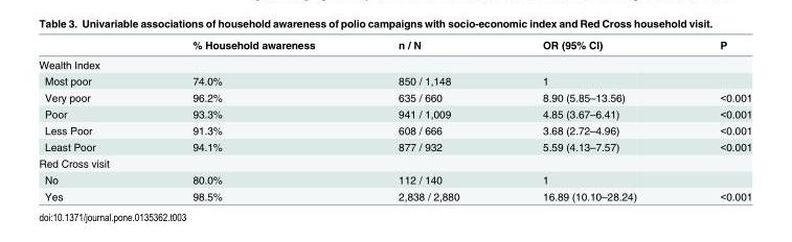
<table><thead><tr><td></td><td>% Household awareness</td><td>n / N</td><td>OR (95% CI)</td><td>P</td></tr></thead><tbody><tr><td colspan="5">Wealth Index</td></tr><tr><td>Most poor</td><td>74.0%</td><td>850 / 1,148</td><td>1</td><td></td></tr><tr><td>Very poor</td><td>96.2%</td><td>635 / 660</td><td>8.90 (5.85–13.56)</td><td>&lt;0.001</td></tr><tr><td>Poor</td><td>93.3%</td><td>941 / 1,009</td><td>4.85 (3.67–6.41)</td><td>&lt;0.001</td></tr><tr><td>Less Poor</td><td>91.3%</td><td>608 / 666</td><td>3.68 (2.72–4.96)</td><td>&lt;0.001</td></tr><tr><td>Least Poor</td><td>94.1%</td><td>877 / 932</td><td>5.59 (4.13–7.57)</td><td>&lt;0.001</td></tr><tr><td colspan="5">Red Cross visit</td></tr><tr><td>No</td><td>80.0%</td><td>112 / 140</td><td>1</td><td></td></tr><tr><td>Yes</td><td>98.5%</td><td>2,838 / 2,880</td><td>16.89 (10.10–28.24)</td><td>&lt;0.001</td></tr></tbody></table>